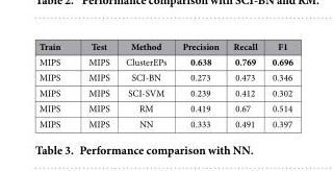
<table><thead><tr><td>Train</td><td>Test</td><td>Method</td><td>Precision</td><td>Recall</td><td>F1</td></tr></thead><tbody><tr><td>MIPS</td><td>MIPS</td><td>ClusterEPs</td><td>0.638</td><td>0.769</td><td>0.696</td></tr><tr><td>MIPS</td><td>MIPS</td><td>SCI-BN</td><td>0.273</td><td>0.473</td><td>0.346</td></tr><tr><td>MIPS</td><td>MIPS</td><td>SCI-SVM</td><td>0.239</td><td>0.412</td><td>0.302</td></tr><tr><td>MIPS</td><td>MIPS</td><td>RM</td><td>0.419</td><td>0.67</td><td>0.514</td></tr><tr><td>MIPS</td><td>MIPS</td><td>NN</td><td>0.333</td><td>0.491</td><td>0.397</td></tr></tbody></table>